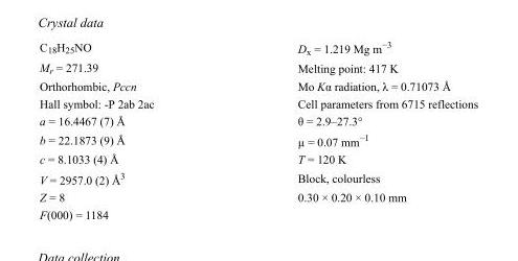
<table><tbody><tr><td>C<sub>18</sub>H<sub>25</sub>NO</td><td>D<sub>x</sub> = 1.219 Mg m<sup>−3</sup></td></tr><tr><td>M<sub>r</sub> = 271.39</td><td>Melting point: 417 K</td></tr><tr><td>Orthorhombic, Pccn</td><td>Mo Kα radiation, λ = 0.71073 Å</td></tr><tr><td>Hall symbol: -P 2ab 2ac</td><td>Cell parameters from 6715 reflections</td></tr><tr><td>a = 16.4467 (7) Å</td><td>θ = 2.9–27.3°</td></tr><tr><td>b = 22.1873 (9) Å</td><td>µ = 0.07 mm<sup>−1</sup></td></tr><tr><td>c = 8.1033 (4) Å</td><td>T = 120 K</td></tr><tr><td>V = 2957.0 (2) Å<sup>3</sup></td><td>Block, colourless</td></tr><tr><td>Z = 8</td><td>0.30 × 0.20 × 0.10 mm</td></tr><tr><td>F(000) = 1184</td><td></td></tr></tbody></table>